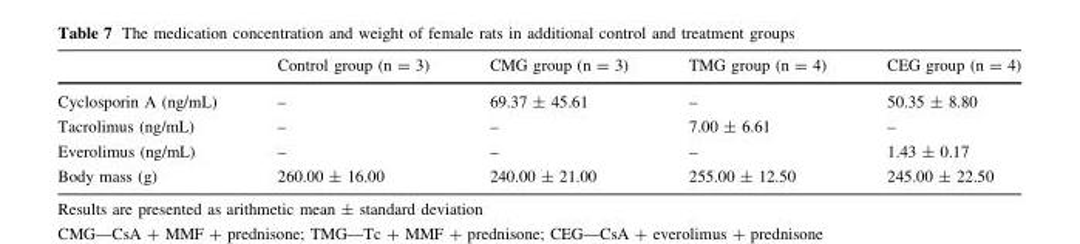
<table><thead><tr><td></td><td>Control group (n = 3)</td><td>CMG group (n = 3)</td><td>TMG group (n = 4)</td><td>CEG group (n = 4)</td></tr></thead><tbody><tr><td>Cyclosporin A (ng/mL)</td><td>–</td><td>69.37 ± 45.61</td><td>–</td><td>50.35 ± 8.80</td></tr><tr><td>Tacrolimus (ng/mL)</td><td>–</td><td>–</td><td>7.00 ± 6.61</td><td>–</td></tr><tr><td>Everolimus (ng/mL)</td><td>–</td><td>–</td><td>–</td><td>1.43 ± 0.17</td></tr><tr><td>Body mass (g)</td><td>260.00 ± 16.00</td><td>240.00 ± 21.00</td><td>255.00 ± 12.50</td><td>245.00 ± 22.50</td></tr></tbody></table>